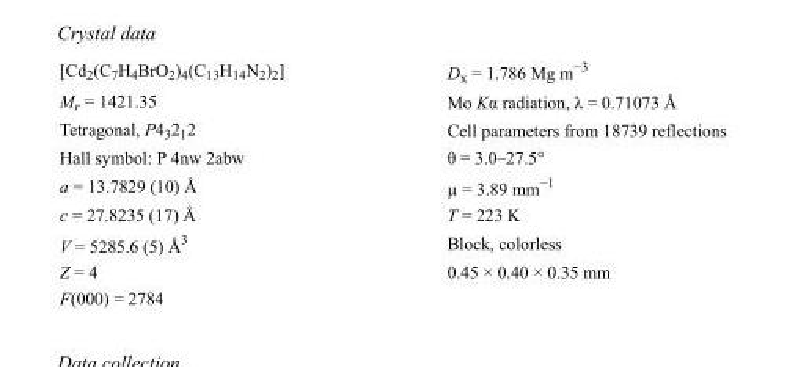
<table><tbody><tr><td>[Cd<sub>2</sub>(C<sub>7</sub>H<sub>4</sub>BrO<sub>2</sub>)<sub>4</sub>(C<sub>13</sub>H<sub>14</sub>N<sub>2</sub>)<sub>2</sub>]</td><td>D<sub>x</sub> = 1.786 Mg m<sup>−3</sup></td></tr><tr><td>M<sub>r</sub> = 1421.35</td><td>Mo Kα radiation, λ = 0.71073 Å</td></tr><tr><td>Tetragonal, P4<sub>3</sub>2<sub>1</sub>2</td><td>Cell parameters from 18739 reflections</td></tr><tr><td>Hall symbol: P 4nw 2abw</td><td>θ = 3.0–27.5°</td></tr><tr><td>a = 13.7829 (10) Å</td><td>µ = 3.89 mm<sup>−1</sup></td></tr><tr><td>c = 27.8235 (17) Å</td><td>T = 223 K</td></tr><tr><td>V = 5285.6 (5) Å<sup>3</sup></td><td>Block, colorless</td></tr><tr><td>Z = 4</td><td>0.45 × 0.40 × 0.35 mm</td></tr><tr><td>F(000) = 2784</td><td></td></tr></tbody></table>